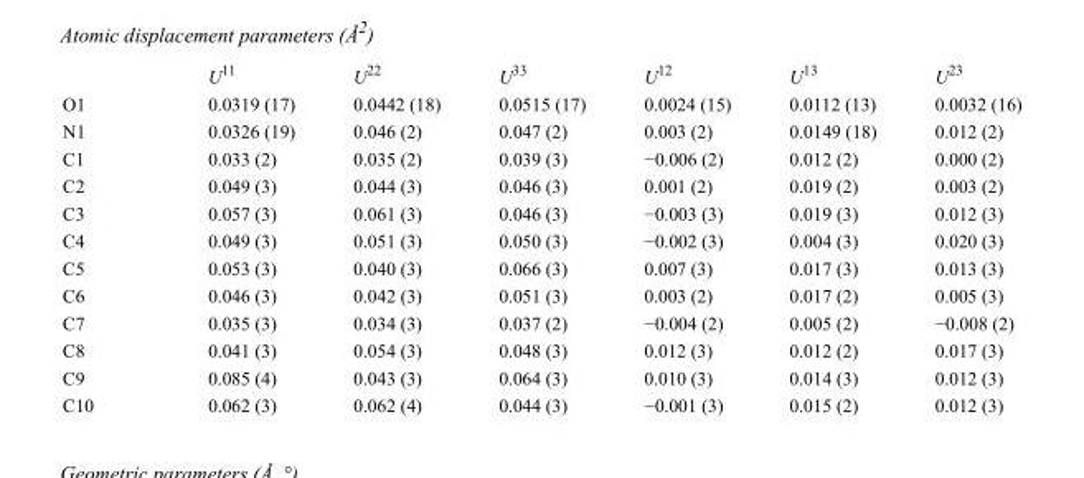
<table><thead><tr><td></td><td>U<sup>11</sup></td><td>U<sup>22</sup></td><td>U<sup>33</sup></td><td>U<sup>12</sup></td><td>U<sup>13</sup></td><td>U<sup>23</sup></td></tr></thead><tbody><tr><td>O1</td><td>0.0319 (17)</td><td>0.0442 (18)</td><td>0.0515 (17)</td><td>0.0024 (15)</td><td>0.0112 (13)</td><td>0.0032 (16)</td></tr><tr><td>N1</td><td>0.0326 (19)</td><td>0.046 (2)</td><td>0.047 (2)</td><td>0.003 (2)</td><td>0.0149 (18)</td><td>0.012 (2)</td></tr><tr><td>C1</td><td>0.033 (2)</td><td>0.035 (2)</td><td>0.039 (3)</td><td>−0.006 (2)</td><td>0.012 (2)</td><td>0.000 (2)</td></tr><tr><td>C2</td><td>0.049 (3)</td><td>0.044 (3)</td><td>0.046 (3)</td><td>0.001 (2)</td><td>0.019 (2)</td><td>0.003 (2)</td></tr><tr><td>C3</td><td>0.057 (3)</td><td>0.061 (3)</td><td>0.046 (3)</td><td>−0.003 (3)</td><td>0.019 (3)</td><td>0.012 (3)</td></tr><tr><td>C4</td><td>0.049 (3)</td><td>0.051 (3)</td><td>0.050 (3)</td><td>−0.002 (3)</td><td>0.004 (3)</td><td>0.020 (3)</td></tr><tr><td>C5</td><td>0.053 (3)</td><td>0.040 (3)</td><td>0.066 (3)</td><td>0.007 (3)</td><td>0.017 (3)</td><td>0.013 (3)</td></tr><tr><td>C6</td><td>0.046 (3)</td><td>0.042 (3)</td><td>0.051 (3)</td><td>0.003 (2)</td><td>0.017 (2)</td><td>0.005 (3)</td></tr><tr><td>C7</td><td>0.035 (3)</td><td>0.034 (3)</td><td>0.037 (2)</td><td>−0.004 (2)</td><td>0.005 (2)</td><td>−0.008 (2)</td></tr><tr><td>C8</td><td>0.041 (3)</td><td>0.054 (3)</td><td>0.048 (3)</td><td>0.012 (3)</td><td>0.012 (2)</td><td>0.017 (3)</td></tr><tr><td>C9</td><td>0.085 (4)</td><td>0.043 (3)</td><td>0.064 (3)</td><td>0.010 (3)</td><td>0.014 (3)</td><td>0.012 (3)</td></tr><tr><td>C10</td><td>0.062 (3)</td><td>0.062 (4)</td><td>0.044 (3)</td><td>−0.001 (3)</td><td>0.015 (2)</td><td>0.012 (3)</td></tr></tbody></table>